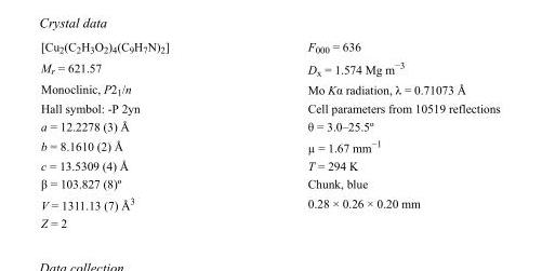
<table><tbody><tr><td>[Cu<sub>2</sub>(C<sub>2</sub>H<sub>3</sub>O<sub>2</sub>)<sub>4</sub>(C<sub>9</sub>H<sub>7</sub>N)<sub>2</sub>]</td><td>F000 = 636</td></tr><tr><td>M<sub>r</sub> = 621.57</td><td>D<sub>x</sub> = 1.574 Mg m<sup>−3</sup></td></tr><tr><td>Monoclinic, P2<sub>1</sub>/n</td><td>Mo Kα radiation, λ = 0.71073 Å</td></tr><tr><td>Hall symbol: -P 2yn</td><td>Cell parameters from 10519 reflections</td></tr><tr><td>a = 12.2278 (3) Å</td><td>θ = 3.0–25.5º</td></tr><tr><td>b = 8.1610 (2) Å</td><td>µ = 1.67 mm<sup>−1</sup></td></tr><tr><td>c = 13.5309 (4) Å</td><td>T = 294 K</td></tr><tr><td>β = 103.827 (8)º</td><td>Chunk, blue</td></tr><tr><td>V = 1311.13 (7) Å<sup>3</sup></td><td>0.28 × 0.26 × 0.20 mm</td></tr><tr><td>Z = 2</td><td></td></tr></tbody></table>